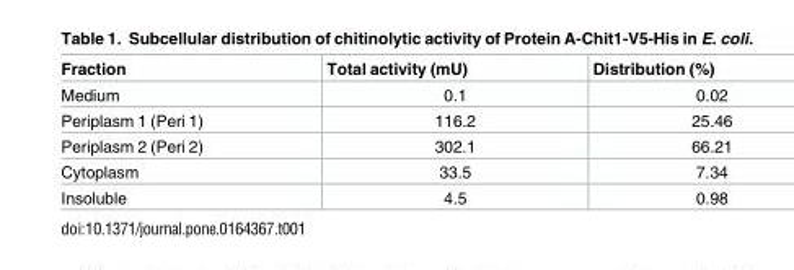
<table><thead><tr><td>Fraction</td><td>Total activity (mU)</td><td>Distribution (%)</td></tr></thead><tbody><tr><td>Medium</td><td>0.1</td><td>0.02</td></tr><tr><td>Periplasm 1 (Peri 1)</td><td>116.2</td><td>25.46</td></tr><tr><td>Periplasm 2 (Peri 2)</td><td>302.1</td><td>66.21</td></tr><tr><td>Cytoplasm</td><td>33.5</td><td>7.34</td></tr><tr><td>Insoluble</td><td>4.5</td><td>0.98</td></tr></tbody></table>